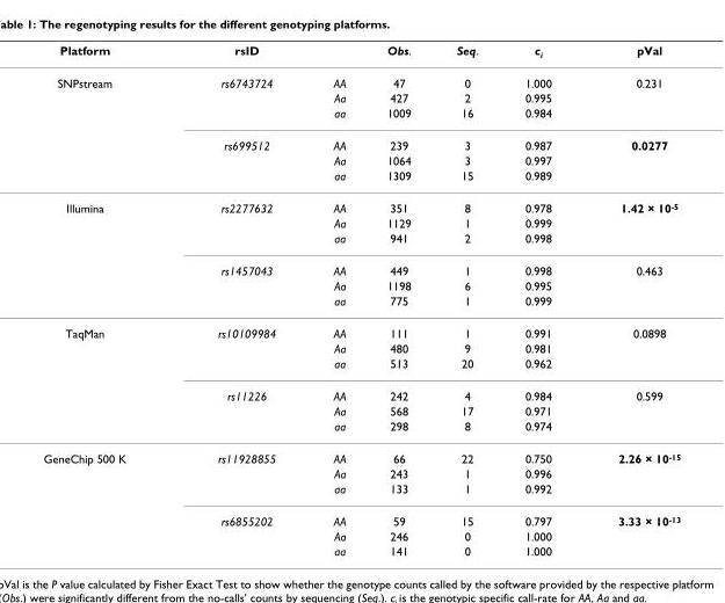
<table><thead><tr><td>Platform</td><td>rsID</td><td></td><td>Obs.</td><td>Seq.</td><td>c<sub>i</sub></td><td>pVal</td></tr></thead><tbody><tr><td rowspan="6">SNPstream</td><td>rs6743724</td><td>AA</td><td>47</td><td>0</td><td>1.000</td><td>0.231</td></tr><tr><td></td><td>Aa</td><td>427</td><td>2</td><td>0.995</td><td></td></tr><tr><td></td><td>aa</td><td>1009</td><td>16</td><td>0.984</td><td></td></tr><tr><td>rs699512</td><td>AA</td><td>239</td><td>3</td><td>0.987</td><td>0.0277</td></tr><tr><td></td><td>Aa</td><td>1064</td><td>3</td><td>0.997</td><td></td></tr><tr><td></td><td>aa</td><td>1309</td><td>15</td><td>0.989</td><td></td></tr><tr><td rowspan="6">Illumina</td><td>rs2277632</td><td>AA</td><td>351</td><td>8</td><td>0.978</td><td>1.42 × 10<sup>-5</sup></td></tr><tr><td></td><td>Aa</td><td>1129</td><td>1</td><td>0.999</td><td></td></tr><tr><td></td><td>aa</td><td>941</td><td>2</td><td>0.998</td><td></td></tr><tr><td>rs1457043</td><td>AA</td><td>449</td><td>1</td><td>0.998</td><td>0.463</td></tr><tr><td></td><td>Aa</td><td>1198</td><td>6</td><td>0.995</td><td></td></tr><tr><td></td><td>aa</td><td>775</td><td>1</td><td>0.999</td><td></td></tr><tr><td rowspan="6">TaqMan</td><td>rs10109984</td><td>AA</td><td>111</td><td>1</td><td>0.991</td><td>0.0898</td></tr><tr><td></td><td>Aa</td><td>480</td><td>9</td><td>0.981</td><td></td></tr><tr><td></td><td>aa</td><td>513</td><td>20</td><td>0.962</td><td></td></tr><tr><td>rs11226</td><td>AA</td><td>242</td><td>4</td><td>0.984</td><td>0.599</td></tr><tr><td></td><td>Aa</td><td>568</td><td>17</td><td>0.971</td><td></td></tr><tr><td></td><td>aa</td><td>298</td><td>8</td><td>0.974</td><td></td></tr><tr><td rowspan="6">GeneChip 500 K</td><td>rs11928855</td><td>AA</td><td>66</td><td>22</td><td>0.750</td><td>2.26 × 10<sup>-15</sup></td></tr><tr><td></td><td>Aa</td><td>243</td><td>1</td><td>0.996</td><td></td></tr><tr><td></td><td>aa</td><td>133</td><td>1</td><td>0.992</td><td></td></tr><tr><td>rs6855202</td><td>AA</td><td>59</td><td>15</td><td>0.797</td><td>3.33 × 10<sup>-13</sup></td></tr><tr><td></td><td>Aa</td><td>246</td><td>0</td><td>1.000</td><td></td></tr><tr><td></td><td>aa</td><td>141</td><td>0</td><td>1.000</td><td></td></tr></tbody></table>